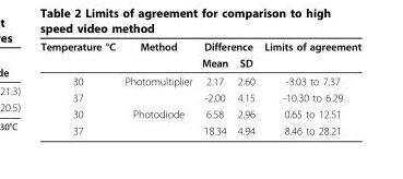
<table><thead><tr><td rowspan="2">Temperature °C</td><td rowspan="2">Method</td><td colspan="2">Difference</td><td rowspan="2">Limits of agreement</td></tr><tr><td>Mean</td><td>SD</td></tr></thead><tbody><tr><td>30</td><td>Photomultiplier</td><td>2.17</td><td>2.60</td><td>-3.03 to 7.37</td></tr><tr><td>37</td><td></td><td>-2.00</td><td>4.15</td><td>-10.30 to 6.29</td></tr><tr><td>30</td><td>Photodiode</td><td>6.58</td><td>2.96</td><td>0.65 to 12.51</td></tr><tr><td>37</td><td></td><td>18.34</td><td>4.94</td><td>8.46 to 28.21</td></tr></tbody></table>